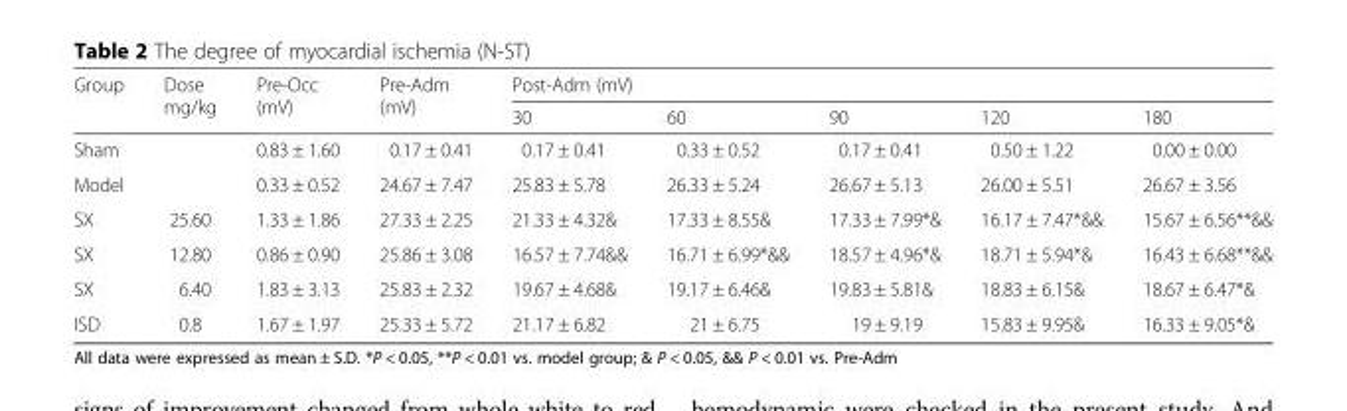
<table><thead><tr><td rowspan="2">Group</td><td rowspan="2">Dose mg/kg</td><td rowspan="2">Pre-Occ (mV)</td><td rowspan="2">Pre-Adm (mV)</td><td colspan="5">Post-Adm (mV)</td></tr><tr><td>30</td><td>60</td><td>90</td><td>120</td><td>180</td></tr></thead><tbody><tr><td>Sham</td><td></td><td>0.83 ± 1.60</td><td>0.17 ± 0.41</td><td>0.17 ± 0.41</td><td>0.33 ± 0.52</td><td>0.17 ± 0.41</td><td>0.50 ± 1.22</td><td>0.00 ± 0.00</td></tr><tr><td>Model</td><td></td><td>0.33 ± 0.52</td><td>24.67 ± 7.47</td><td>25.83 ± 5.78</td><td>26.33 ± 5.24</td><td>26.67 ± 5.13</td><td>26.00 ± 5.51</td><td>26.67 ± 3.56</td></tr><tr><td>SX</td><td>25.60</td><td>1.33 ± 1.86</td><td>27.33 ± 2.25</td><td>21.33 ± 4.32&amp;</td><td>17.33 ± 8.55&amp;</td><td>17.33 ± 7.99*&amp;</td><td>16.17 ± 7.47*&amp;&amp;</td><td>15.67 ± 6.56**&amp;&amp;</td></tr><tr><td>SX</td><td>12.80</td><td>0.86 ± 0.90</td><td>25.86 ± 3.08</td><td>16.57 ± 7.74&amp;&amp;</td><td>16.71 ± 6.99*&amp;&amp;</td><td>18.57 ± 4.96*&amp;</td><td>18.71 ± 5.94*&amp;</td><td>16.43 ± 6.68**&amp;&amp;</td></tr><tr><td>SX</td><td>6.40</td><td>1.83 ± 3.13</td><td>25.83 ± 2.32</td><td>19.67 ± 4.68&amp;</td><td>19.17 ± 6.46&amp;</td><td>19.83 ± 5.81&amp;</td><td>18.83 ± 6.15&amp;</td><td>18.67 ± 6.47*&amp;</td></tr><tr><td>ISD</td><td>0.8</td><td>1.67 ± 1.97</td><td>25.33 ± 5.72</td><td>21.17 ± 6.82</td><td>21 ± 6.75</td><td>19 ± 9.19</td><td>15.83 ± 9.95&amp;</td><td>16.33 ± 9.05*&amp;</td></tr></tbody></table>